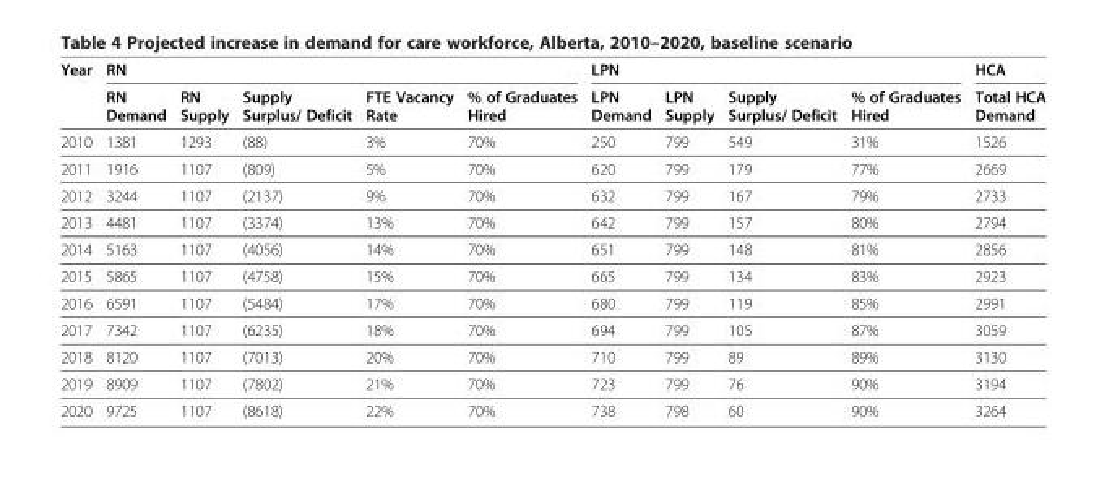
<table><thead><tr><td rowspan="2">Year</td><td colspan="5">RN</td><td colspan="4">LPN</td><td rowspan="2">HCA Total HCA Demand</td></tr><tr><td>RN Demand</td><td>RN Supply</td><td>Supply Surplus/ Deficit</td><td>FTE Vacancy Rate</td><td>% of Graduates Hired</td><td>LPN Demand</td><td>LPN Supply</td><td>Supply Surplus/ Deficit</td><td>% of Graduates Hired</td></tr></thead><tbody><tr><td>2010</td><td>1381</td><td>1293</td><td>(88)</td><td>3%</td><td>70%</td><td>250</td><td>799</td><td>549</td><td>31%</td><td>1526</td></tr><tr><td>2011</td><td>1916</td><td>1107</td><td>(809)</td><td>5%</td><td>70%</td><td>620</td><td>799</td><td>179</td><td>77%</td><td>2669</td></tr><tr><td>2012</td><td>3244</td><td>1107</td><td>(2137)</td><td>9%</td><td>70%</td><td>632</td><td>799</td><td>167</td><td>79%</td><td>2733</td></tr><tr><td>2013</td><td>4481</td><td>1107</td><td>(3374)</td><td>13%</td><td>70%</td><td>642</td><td>799</td><td>157</td><td>80%</td><td>2794</td></tr><tr><td>2014</td><td>5163</td><td>1107</td><td>(4056)</td><td>14%</td><td>70%</td><td>651</td><td>799</td><td>148</td><td>81%</td><td>2856</td></tr><tr><td>2015</td><td>5865</td><td>1107</td><td>(4758)</td><td>15%</td><td>70%</td><td>665</td><td>799</td><td>134</td><td>83%</td><td>2923</td></tr><tr><td>2016</td><td>6591</td><td>1107</td><td>(5484)</td><td>17%</td><td>70%</td><td>680</td><td>799</td><td>119</td><td>85%</td><td>2991</td></tr><tr><td>2017</td><td>7342</td><td>1107</td><td>(6235)</td><td>18%</td><td>70%</td><td>694</td><td>799</td><td>105</td><td>87%</td><td>3059</td></tr><tr><td>2018</td><td>8120</td><td>1107</td><td>(7013)</td><td>20%</td><td>70%</td><td>710</td><td>799</td><td>89</td><td>89%</td><td>3130</td></tr><tr><td>2019</td><td>8909</td><td>1107</td><td>(7802)</td><td>21%</td><td>70%</td><td>723</td><td>799</td><td>76</td><td>90%</td><td>3194</td></tr><tr><td>2020</td><td>9725</td><td>1107</td><td>(8618)</td><td>22%</td><td>70%</td><td>738</td><td>798</td><td>60</td><td>90%</td><td>3264</td></tr></tbody></table>